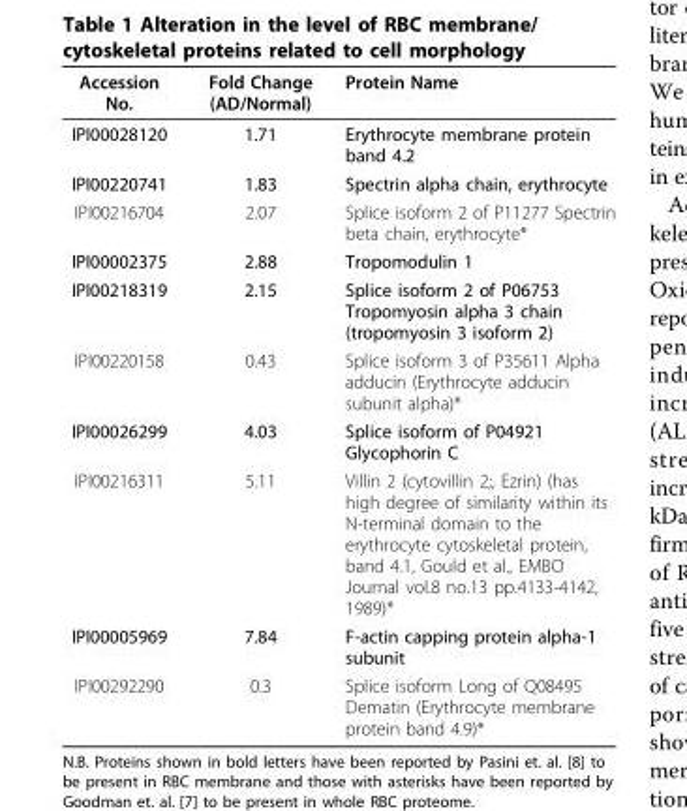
<table><thead><tr><td>Accession No.</td><td>Fold Change (AD/Normal)</td><td>Protein Name</td></tr></thead><tbody><tr><td>IPI00028120</td><td>1.71</td><td>Erythrocyte membrane protein band 4.2</td></tr><tr><td>IPI00220741</td><td>1.83</td><td>Spectrin alpha chain, erythrocyte</td></tr><tr><td>IPI00216704</td><td>2.07</td><td>Splice isoform 2 of P11277 Spectrin beta chain, erythrocyte*</td></tr><tr><td>IPI00002375</td><td>2.88</td><td>Tropomodulin 1</td></tr><tr><td>IPI00218319</td><td>2.15</td><td>Splice isoform 2 of P06753 Tropomyosin alpha 3 chain (tropomyosin 3 isoform 2)</td></tr><tr><td>IPI00220158</td><td>0.43</td><td>Splice isoform 3 of P35611 Alpha adducin (Erythrocyte adducin subunit alpha)*</td></tr><tr><td>IPI00026299</td><td>4.03</td><td>Splice isoform of P04921 Glycophorin C</td></tr><tr><td>IPI00216311</td><td>5.11</td><td>Villin 2 (cytovillin 2;, Ezrin) (has high degree of similarity within its N-terminal domain to the erythrocyte cytoskeletal protein, band 4.1, Gould et al., EMBO Journal vol.8 no.13 pp.4133-4142, 1989)*</td></tr><tr><td>IPI00005969</td><td>7.84</td><td>F-actin capping protein alpha-1 subunit</td></tr><tr><td>IPI00292290</td><td>0.3</td><td>Splice isoform Long of Q08495 Dematin (Erythrocyte membrane protein band 4.9)*</td></tr></tbody></table>